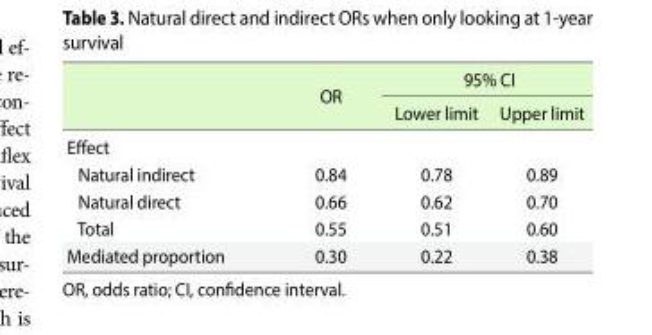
<table><thead><tr><td rowspan="2"></td><td rowspan="2">OR</td><td colspan="2">95% CI</td></tr><tr><td>Lower limit</td><td>Upper limit</td></tr></thead><tbody><tr><td colspan="4">Effect</td></tr><tr><td>Natural indirect</td><td>0.84</td><td>0.78</td><td>0.89</td></tr><tr><td>Natural direct</td><td>0.66</td><td>0.62</td><td>0.70</td></tr><tr><td>Total</td><td>0.55</td><td>0.51</td><td>0.60</td></tr><tr><td>Mediated proportion</td><td>0.30</td><td>0.22</td><td>0.38</td></tr></tbody></table>